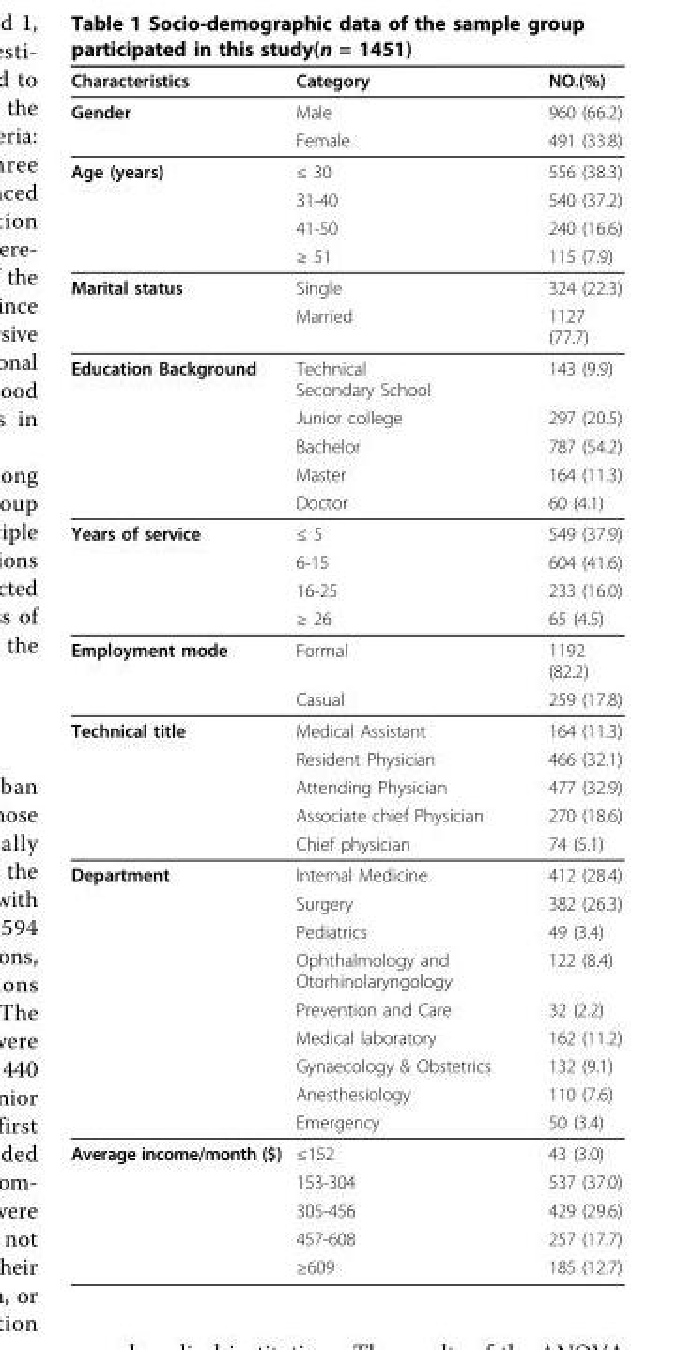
<table><thead><tr><td>Characteristics</td><td>Category</td><td>NO.(%)</td></tr></thead><tbody><tr><td rowspan="2">Gender</td><td>Male</td><td>960 (66.2)</td></tr><tr><td>Female</td><td>491 (33.8)</td></tr><tr><td rowspan="4">Age (years)</td><td>≤ 30</td><td>556 (38.3)</td></tr><tr><td>31-40</td><td>540 (37.2)</td></tr><tr><td>41-50</td><td>240 (16.6)</td></tr><tr><td>≥ 51</td><td>115 (7.9)</td></tr><tr><td rowspan="2">Marital status</td><td>Single</td><td>324 (22.3)</td></tr><tr><td>Married</td><td>1127 (77.7)</td></tr><tr><td rowspan="5">Education Background</td><td>Technical Secondary School</td><td>143 (9.9)</td></tr><tr><td>Junior college</td><td>297 (20.5)</td></tr><tr><td>Bachelor</td><td>787 (54.2)</td></tr><tr><td>Master</td><td>164 (11.3)</td></tr><tr><td>Doctor</td><td>60 (4.1)</td></tr><tr><td rowspan="4">Years of service</td><td>≤ 5</td><td>549 (37.9)</td></tr><tr><td>6-15</td><td>604 (41.6)</td></tr><tr><td>16-25</td><td>233 (16.0)</td></tr><tr><td>≥ 26</td><td>65 (4.5)</td></tr><tr><td rowspan="2">Employment mode</td><td>Formal</td><td>1192 (82.2)</td></tr><tr><td>Casual</td><td>259 (17.8)</td></tr><tr><td rowspan="5">Technical title</td><td>Medical Assistant</td><td>164 (11.3)</td></tr><tr><td>Resident Physician</td><td>466 (32.1)</td></tr><tr><td>Attending Physician</td><td>477 (32.9)</td></tr><tr><td>Associate chief Physician</td><td>270 (18.6)</td></tr><tr><td>Chief physician</td><td>74 (5.1)</td></tr><tr><td rowspan="9">Department</td><td>Internal Medicine</td><td>412 (28.4)</td></tr><tr><td>Surgery</td><td>382 (26.3)</td></tr><tr><td>Pediatrics</td><td>49 (3.4)</td></tr><tr><td>Ophthalmology and Otorhinolaryngology</td><td>122 (8.4)</td></tr><tr><td>Prevention and Care</td><td>32 (2.2)</td></tr><tr><td>Medical laboratory</td><td>162 (11.2)</td></tr><tr><td>Gynaecology &amp; Obstetrics</td><td>132 (9.1)</td></tr><tr><td>Anesthesiology</td><td>110 (7.6)</td></tr><tr><td>Emergency</td><td>50 (3.4)</td></tr><tr><td rowspan="5">Average income/month ($)</td><td>≤152</td><td>43 (3.0)</td></tr><tr><td>153-304</td><td>537 (37.0)</td></tr><tr><td>305-456</td><td>429 (29.6)</td></tr><tr><td>457-608</td><td>257 (17.7)</td></tr><tr><td>≥609</td><td>185 (12.7)</td></tr></tbody></table>